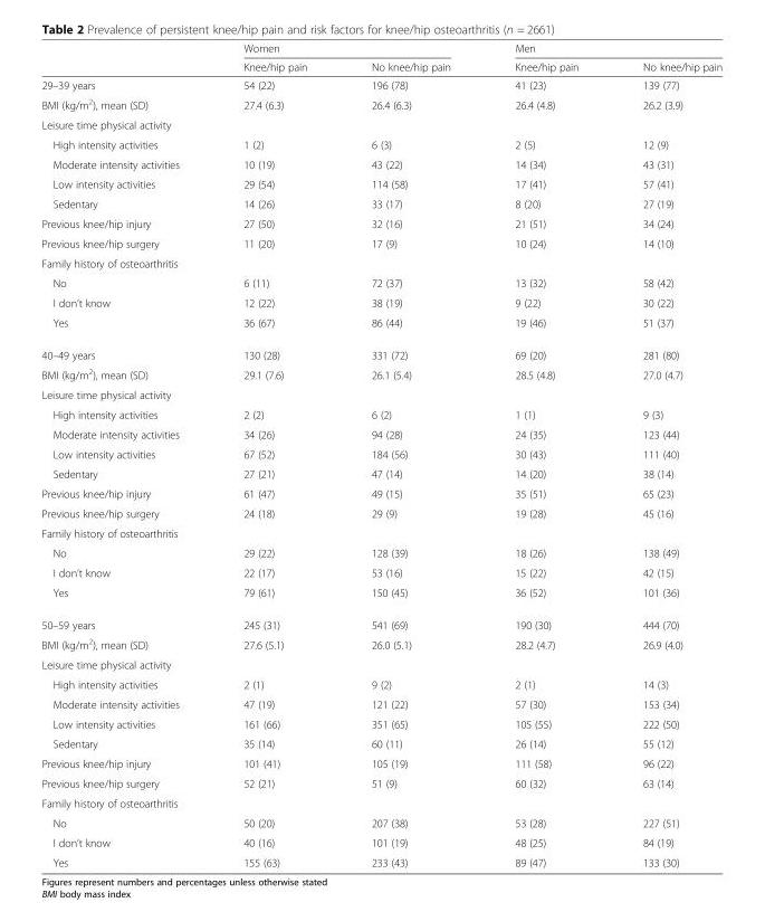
<table><thead><tr><td rowspan="2"></td><td colspan="2">Women</td><td colspan="2">Men</td></tr><tr><td>Knee/hip pain</td><td>No knee/hip pain</td><td>Knee/hip pain</td><td>No knee/hip pain</td></tr></thead><tbody><tr><td>29–39 years</td><td>54 (22)</td><td>196 (78)</td><td>41 (23)</td><td>139 (77)</td></tr><tr><td>BMI (kg/m<sup>2</sup>), mean (SD)</td><td>27.4 (6.3)</td><td>26.4 (6.3)</td><td>26.4 (4.8)</td><td>26.2 (3.9)</td></tr><tr><td colspan="5">Leisure time physical activity</td></tr><tr><td>High intensity activities</td><td>1 (2)</td><td>6 (3)</td><td>2 (5)</td><td>12 (9)</td></tr><tr><td>Moderate intensity activities</td><td>10 (19)</td><td>43 (22)</td><td>14 (34)</td><td>43 (31)</td></tr><tr><td>Low intensity activities</td><td>29 (54)</td><td>114 (58)</td><td>17 (41)</td><td>57 (41)</td></tr><tr><td>Sedentary</td><td>14 (26)</td><td>33 (17)</td><td>8 (20)</td><td>27 (19)</td></tr><tr><td>Previous knee/hip injury</td><td>27 (50)</td><td>32 (16)</td><td>21 (51)</td><td>34 (24)</td></tr><tr><td>Previous knee/hip surgery</td><td>11 (20)</td><td>17 (9)</td><td>10 (24)</td><td>14 (10)</td></tr><tr><td colspan="5">Family history of osteoarthritis</td></tr><tr><td>No</td><td>6 (11)</td><td>72 (37)</td><td>13 (32)</td><td>58 (42)</td></tr><tr><td>I don’t know</td><td>12 (22)</td><td>38 (19)</td><td>9 (22)</td><td>30 (22)</td></tr><tr><td>Yes</td><td>36 (67)</td><td>86 (44)</td><td>19 (46)</td><td>51 (37)</td></tr><tr><td>40–49 years</td><td>130 (28)</td><td>331 (72)</td><td>69 (20)</td><td>281 (80)</td></tr><tr><td>BMI (kg/m<sup>2</sup>), mean (SD)</td><td>29.1 (7.6)</td><td>26.1 (5.4)</td><td>28.5 (4.8)</td><td>27.0 (4.7)</td></tr><tr><td colspan="5">Leisure time physical activity</td></tr><tr><td>High intensity activities</td><td>2 (2)</td><td>6 (2)</td><td>1 (1)</td><td>9 (3)</td></tr><tr><td>Moderate intensity activities</td><td>34 (26)</td><td>94 (28)</td><td>24 (35)</td><td>123 (44)</td></tr><tr><td>Low intensity activities</td><td>67 (52)</td><td>184 (56)</td><td>30 (43)</td><td>111 (40)</td></tr><tr><td>Sedentary</td><td>27 (21)</td><td>47 (14)</td><td>14 (20)</td><td>38 (14)</td></tr><tr><td>Previous knee/hip injury</td><td>61 (47)</td><td>49 (15)</td><td>35 (51)</td><td>65 (23)</td></tr><tr><td>Previous knee/hip surgery</td><td>24 (18)</td><td>29 (9)</td><td>19 (28)</td><td>45 (16)</td></tr><tr><td colspan="5">Family history of osteoarthritis</td></tr><tr><td>No</td><td>29 (22)</td><td>128 (39)</td><td>18 (26)</td><td>138 (49)</td></tr><tr><td>I don’t know</td><td>22 (17)</td><td>53 (16)</td><td>15 (22)</td><td>42 (15)</td></tr><tr><td>Yes</td><td>79 (61)</td><td>150 (45)</td><td>36 (52)</td><td>101 (36)</td></tr><tr><td>50–59 years</td><td>245 (31)</td><td>541 (69)</td><td>190 (30)</td><td>444 (70)</td></tr><tr><td>BMI (kg/m<sup>2</sup>), mean (SD)</td><td>27.6 (5.1)</td><td>26.0 (5.1)</td><td>28.2 (4.7)</td><td>26.9 (4.0)</td></tr><tr><td colspan="5">Leisure time physical activity</td></tr><tr><td>High intensity activities</td><td>2 (1)</td><td>9 (2)</td><td>2 (1)</td><td>14 (3)</td></tr><tr><td>Moderate intensity activities</td><td>47 (19)</td><td>121 (22)</td><td>57 (30)</td><td>153 (34)</td></tr><tr><td>Low intensity activities</td><td>161 (66)</td><td>351 (65)</td><td>105 (55)</td><td>222 (50)</td></tr><tr><td>Sedentary</td><td>35 (14)</td><td>60 (11)</td><td>26 (14)</td><td>55 (12)</td></tr><tr><td>Previous knee/hip injury</td><td>101 (41)</td><td>105 (19)</td><td>111 (58)</td><td>96 (22)</td></tr><tr><td>Previous knee/hip surgery</td><td>52 (21)</td><td>51 (9)</td><td>60 (32)</td><td>63 (14)</td></tr><tr><td colspan="5">Family history of osteoarthritis</td></tr><tr><td>No</td><td>50 (20)</td><td>207 (38)</td><td>53 (28)</td><td>227 (51)</td></tr><tr><td>I don’t know</td><td>40 (16)</td><td>101 (19)</td><td>48 (25)</td><td>84 (19)</td></tr><tr><td>Yes</td><td>155 (63)</td><td>233 (43)</td><td>89 (47)</td><td>133 (30)</td></tr></tbody></table>